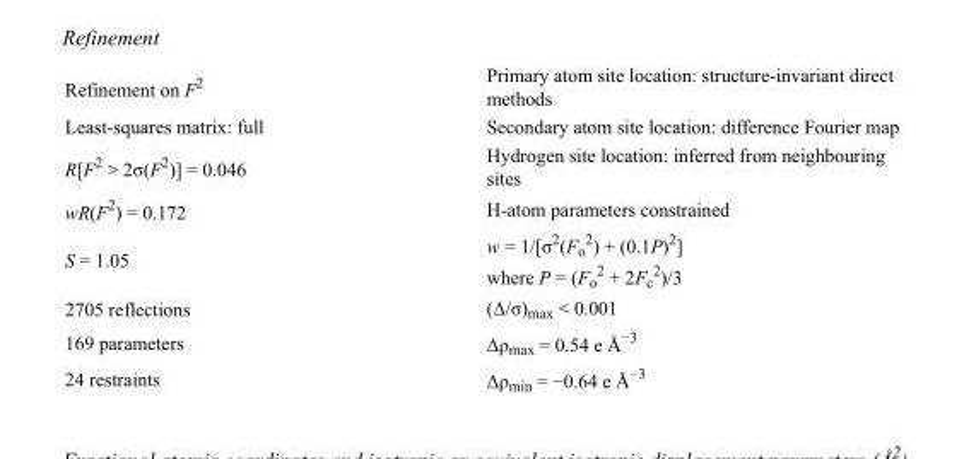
<table><tbody><tr><td>Refinement on F<sup>2</sup></td><td>Primary atom site location: structure-invariant direct methods</td></tr><tr><td>Least-squares matrix: full</td><td>Secondary atom site location: difference Fourier map</td></tr><tr><td>R[F<sup>2</sup> &gt; 2σ(F<sup>2</sup>)] = 0.046</td><td>Hydrogen site location: inferred from neighbouring sites</td></tr><tr><td>wR(F<sup>2</sup>) = 0.172</td><td>H-atom parameters constrained</td></tr><tr><td>S = 1.05</td><td>w = 1/[σ<sup>2</sup>(F<sub>o</sub> <sup>2</sup>) + (0.1P)<sup>2</sup>] where P = (F<sub>o</sub> <sup>2</sup> + 2F<sub>c</sub> <sup>2</sup>)/3</td></tr><tr><td>2705 reflections</td><td>(Δ/σ)<sub>max</sub> &lt; 0.001</td></tr><tr><td>169 parameters</td><td>Δρ<sub>max</sub> = 0.54 e Å<sup>−3</sup></td></tr><tr><td>24 restraints</td><td>Δρ<sub>min</sub> = −0.64 e Å<sup>−3</sup></td></tr></tbody></table>